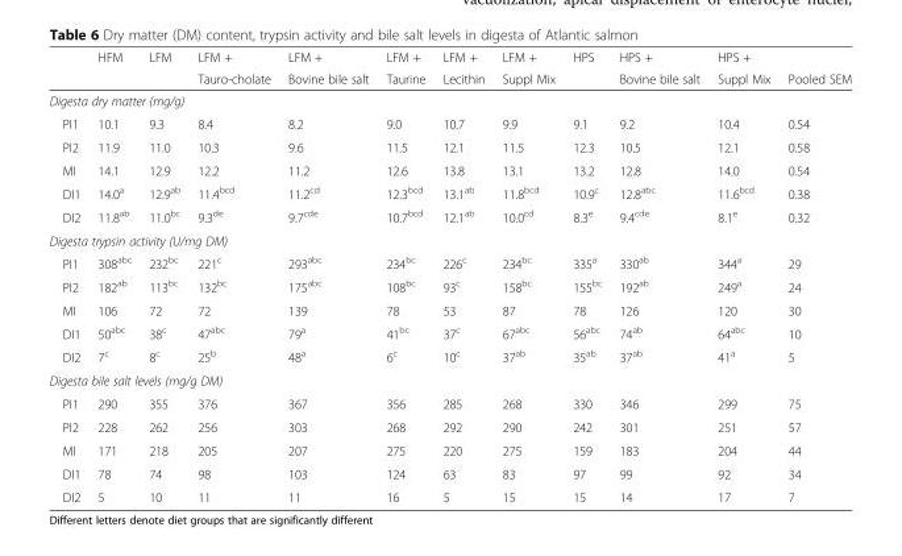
<table><thead><tr><td rowspan="2"></td><td rowspan="2">HFM</td><td rowspan="2">LFM</td><td rowspan="2">LFM + Tauro-cholate</td><td rowspan="2">LFM + Bovine bile salt</td><td rowspan="2">LFM + Taurine</td><td rowspan="2">LFM + Lecithin</td><td rowspan="2">LFM + Suppl Mix</td><td rowspan="2">HPS</td><td rowspan="2">HPS + Bovine bile salt</td><td rowspan="2">HPS + Suppl Mix</td><td rowspan="2">Pooled SEM</td></tr><tr></tr></thead><tbody><tr><td colspan="12">Digesta dry matter (mg/g)</td></tr><tr><td>PI1</td><td>10.1</td><td>9.3</td><td>8.4</td><td>8.2</td><td>9.0</td><td>10.7</td><td>9.9</td><td>9.1</td><td>9.2</td><td>10.4</td><td>0.54</td></tr><tr><td>PI2</td><td>11.9</td><td>11.0</td><td>10.3</td><td>9.6</td><td>11.5</td><td>12.1</td><td>11.5</td><td>12.3</td><td>10.5</td><td>12.1</td><td>0.58</td></tr><tr><td>MI</td><td>14.1</td><td>12.9</td><td>12.2</td><td>11.2</td><td>12.6</td><td>13.8</td><td>13.1</td><td>13.2</td><td>12.8</td><td>14.0</td><td>0.54</td></tr><tr><td>DI1</td><td>14.0<sup>a</sup></td><td>12.9<sup>ab</sup></td><td>11.4<sup>bcd</sup></td><td>11.2<sup>cd</sup></td><td>12.3<sup>bcd</sup></td><td>13.1<sup>ab</sup></td><td>11.8<sup>bcd</sup></td><td>10.9<sup>c</sup></td><td>12.8<sup>abc</sup></td><td>11.6<sup>bcd</sup></td><td>0.38</td></tr><tr><td>DI2</td><td>11.8<sup>ab</sup></td><td>11.0<sup>bc</sup></td><td>9.3<sup>de</sup></td><td>9.7<sup>cde</sup></td><td>10.7<sup>bcd</sup></td><td>12.1<sup>ab</sup></td><td>10.0<sup>cd</sup></td><td>8.3<sup>e</sup></td><td>9.4<sup>cde</sup></td><td>8.1<sup>e</sup></td><td>0.32</td></tr><tr><td colspan="12">Digesta trypsin activity (U/mg DM)</td></tr><tr><td>PI1</td><td>308<sup>abc</sup></td><td>232<sup>bc</sup></td><td>221<sup>c</sup></td><td>293<sup>abc</sup></td><td>234<sup>bc</sup></td><td>226<sup>c</sup></td><td>234<sup>bc</sup></td><td>335<sup>a</sup></td><td>330<sup>ab</sup></td><td>344<sup>a</sup></td><td>29</td></tr><tr><td>PI2</td><td>182<sup>ab</sup></td><td>113<sup>bc</sup></td><td>132<sup>bc</sup></td><td>175<sup>abc</sup></td><td>108<sup>bc</sup></td><td>93<sup>c</sup></td><td>158<sup>bc</sup></td><td>155<sup>bc</sup></td><td>192<sup>ab</sup></td><td>249<sup>a</sup></td><td>24</td></tr><tr><td>MI</td><td>106</td><td>72</td><td>72</td><td>139</td><td>78</td><td>53</td><td>87</td><td>78</td><td>126</td><td>120</td><td>30</td></tr><tr><td>DI1</td><td>50<sup>abc</sup></td><td>38<sup>c</sup></td><td>47<sup>abc</sup></td><td>79<sup>a</sup></td><td>41<sup>bc</sup></td><td>37<sup>c</sup></td><td>67<sup>abc</sup></td><td>56<sup>abc</sup></td><td>74<sup>ab</sup></td><td>64<sup>abc</sup></td><td>10</td></tr><tr><td>DI2</td><td>7<sup>c</sup></td><td>8<sup>c</sup></td><td>25<sup>b</sup></td><td>48<sup>a</sup></td><td>6<sup>c</sup></td><td>10<sup>c</sup></td><td>37<sup>ab</sup></td><td>35<sup>ab</sup></td><td>37<sup>ab</sup></td><td>41<sup>a</sup></td><td>5</td></tr><tr><td colspan="12">Digesta bile salt levels (mg/g DM)</td></tr><tr><td>PI1</td><td>290</td><td>355</td><td>376</td><td>367</td><td>356</td><td>285</td><td>268</td><td>330</td><td>346</td><td>299</td><td>75</td></tr><tr><td>PI2</td><td>228</td><td>262</td><td>256</td><td>303</td><td>268</td><td>292</td><td>290</td><td>242</td><td>301</td><td>251</td><td>57</td></tr><tr><td>MI</td><td>171</td><td>218</td><td>205</td><td>207</td><td>275</td><td>220</td><td>275</td><td>159</td><td>183</td><td>204</td><td>44</td></tr><tr><td>DI1</td><td>78</td><td>74</td><td>98</td><td>103</td><td>124</td><td>63</td><td>83</td><td>97</td><td>99</td><td>92</td><td>34</td></tr><tr><td>DI2</td><td>5</td><td>10</td><td>11</td><td>11</td><td>16</td><td>5</td><td>15</td><td>15</td><td>14</td><td>17</td><td>7</td></tr></tbody></table>